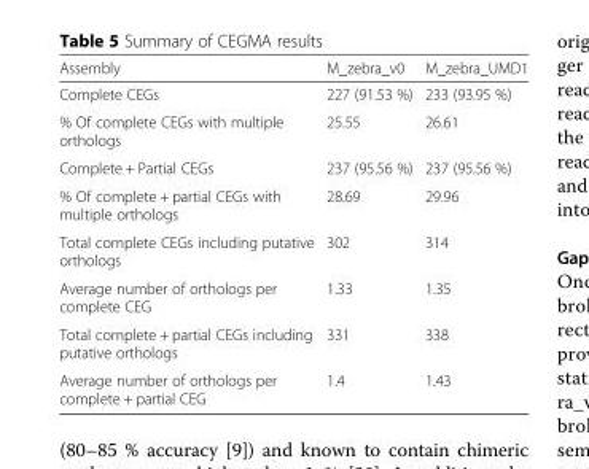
<table><thead><tr><td>Assembly</td><td>M_zebra_v0</td><td>M_zebra_UMD1</td></tr></thead><tbody><tr><td>Complete CEGs</td><td>227 (91.53 %)</td><td>233 (93.95 %)</td></tr><tr><td>% Of complete CEGs with multiple orthologs</td><td>25.55</td><td>26.61</td></tr><tr><td>Complete + Partial CEGs</td><td>237 (95.56 %)</td><td>237 (95.56 %)</td></tr><tr><td>% Of complete + partial CEGs with multiple orthologs</td><td>28.69</td><td>29.96</td></tr><tr><td>Total complete CEGs including putative orthologs</td><td>302</td><td>314</td></tr><tr><td>Average number of orthologs per complete CEG</td><td>1.33</td><td>1.35</td></tr><tr><td>Total complete + partial CEGs including putative orthologs</td><td>331</td><td>338</td></tr><tr><td>Average number of orthologs per complete + partial CEG</td><td>1.4</td><td>1.43</td></tr></tbody></table>